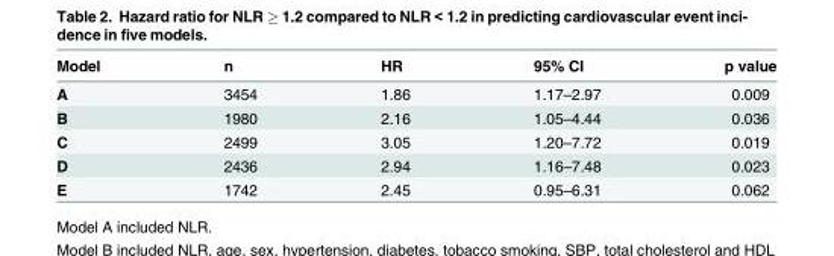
<table><thead><tr><td>Model</td><td>n</td><td>HR</td><td>95% CI</td><td>p value</td></tr></thead><tbody><tr><td>A</td><td>3454</td><td>1.86</td><td>1.17–2.97</td><td>0.009</td></tr><tr><td>B</td><td>1980</td><td>2.16</td><td>1.05–4.44</td><td>0.036</td></tr><tr><td>C</td><td>2499</td><td>3.05</td><td>1.20–7.72</td><td>0.019</td></tr><tr><td>D</td><td>2436</td><td>2.94</td><td>1.16–7.48</td><td>0.023</td></tr><tr><td>E</td><td>1742</td><td>2.45</td><td>0.95–6.31</td><td>0.062</td></tr></tbody></table>